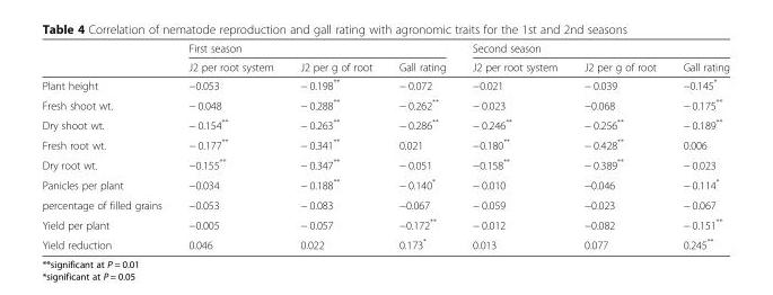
<table><thead><tr><td rowspan="2"></td><td colspan="3">First season</td><td colspan="3">Second season</td></tr><tr><td>J2 per root system</td><td>J2 per g of root</td><td>Gall rating</td><td>J2 per root system</td><td>J2 per g of root</td><td>Gall rating</td></tr></thead><tbody><tr><td>Plant height</td><td>−0.053</td><td>− 0.198**</td><td>− 0.072</td><td>−0.021</td><td>− 0.039</td><td>−0.145*</td></tr><tr><td>Fresh shoot wt.</td><td>− 0.048</td><td>− 0.288**</td><td>− 0.262**</td><td>− 0.023</td><td>−0.068</td><td>− 0.175**</td></tr><tr><td>Dry shoot wt.</td><td>− 0.154**</td><td>− 0.263**</td><td>− 0.286**</td><td>− 0.246**</td><td>− 0.256**</td><td>− 0.189**</td></tr><tr><td>Fresh root wt.</td><td>− 0.177**</td><td>− 0.341**</td><td>0.021</td><td>−0.180**</td><td>− 0.428**</td><td>0.006</td></tr><tr><td>Dry root wt.</td><td>−0.155**</td><td>− 0.347**</td><td>− 0.051</td><td>−0.158**</td><td>− 0.389**</td><td>− 0.023</td></tr><tr><td>Panicles per plant</td><td>−0.034</td><td>− 0.188**</td><td>− 0.140*</td><td>− 0.010</td><td>−0.046</td><td>− 0.114*</td></tr><tr><td>percentage of filled grains</td><td>−0.053</td><td>− 0.083</td><td>−0.067</td><td>− 0.059</td><td>−0.023</td><td>− 0.067</td></tr><tr><td>Yield per plant</td><td>−0.005</td><td>− 0.057</td><td>−0.172**</td><td>− 0.012</td><td>−0.082</td><td>− 0.151**</td></tr><tr><td>Yield reduction</td><td>0.046</td><td>0.022</td><td>0.173*</td><td>0.013</td><td>0.077</td><td>0.245**</td></tr></tbody></table>